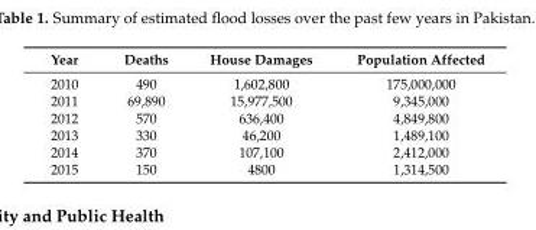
<table><thead><tr><td>Year</td><td>Deaths</td><td>House Damages</td><td>Population Affected</td></tr></thead><tbody><tr><td>2010</td><td>490</td><td>1,602,800</td><td>175,000,000</td></tr><tr><td>2011</td><td>69,890</td><td>15,977,500</td><td>9,345,000</td></tr><tr><td>2012</td><td>570</td><td>636,400</td><td>4,849,800</td></tr><tr><td>2013</td><td>330</td><td>46,200</td><td>1,489,100</td></tr><tr><td>2014</td><td>370</td><td>107,100</td><td>2,412,000</td></tr><tr><td>2015</td><td>150</td><td>4800</td><td>1,314,500</td></tr></tbody></table>